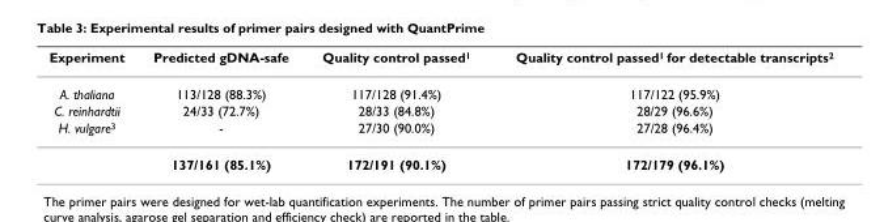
<table><thead><tr><td>Experiment</td><td>Predicted gDNA-safe</td><td>Quality control passed<sup>1</sup></td><td>Quality control passed<sup>1</sup> for detectable transcripts<sup>2</sup></td></tr></thead><tbody><tr><td>A. thaliana</td><td>113/128 (88.3%)</td><td>117/128 (91.4%)</td><td>117/122 (95.9%)</td></tr><tr><td>C. reinhardtii</td><td>24/33 (72.7%)</td><td>28/33 (84.8%)</td><td>28/29 (96.6%)</td></tr><tr><td rowspan="2">H. vulgare<sup>3</sup></td><td>-</td><td>27/30 (90.0%)</td><td>27/28 (96.4%)</td></tr><tr><td>137/161 (85.1%)</td><td>172/191 (90.1%)</td><td>172/179 (96.1%)</td></tr></tbody></table>